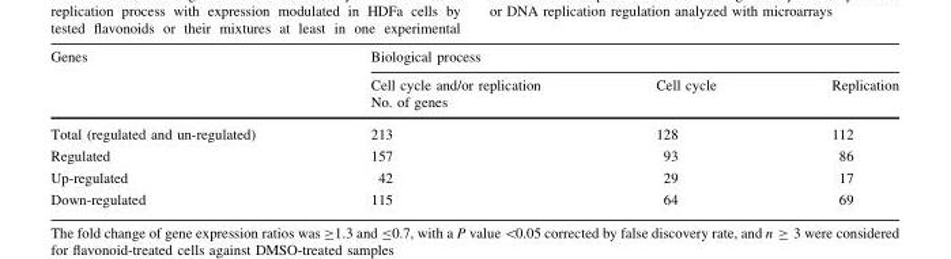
<table><thead><tr><td rowspan="3">Genes</td><td colspan="3">Biological process</td></tr><tr><td>Cell cycle and/or replication</td><td>Cell cycle</td><td>Replication</td></tr><tr><td colspan="3">No. of genes</td></tr></thead><tbody><tr><td>Total (regulated and un-regulated)</td><td>213</td><td>128</td><td>112</td></tr><tr><td>Regulated</td><td>157</td><td>93</td><td>86</td></tr><tr><td>Up-regulated</td><td>42</td><td>29</td><td>17</td></tr><tr><td>Down-regulated</td><td>115</td><td>64</td><td>69</td></tr></tbody></table>